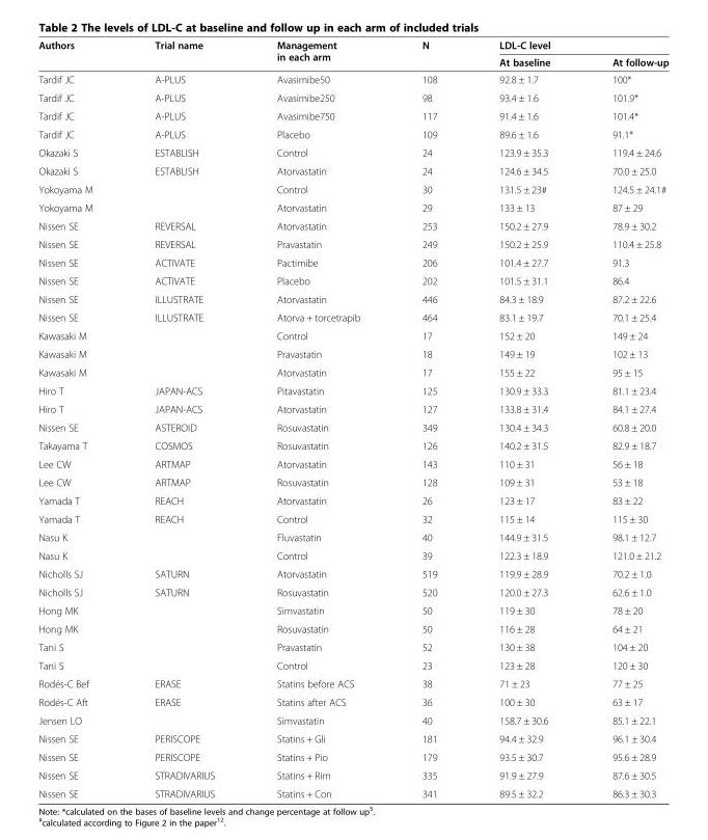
<table><thead><tr><td rowspan="2">Authors</td><td rowspan="2">Trial name</td><td rowspan="2">Management in each arm</td><td rowspan="2">N</td><td colspan="2">LDL-C level</td></tr><tr><td>At baseline</td><td>At follow-up</td></tr></thead><tbody><tr><td>Tardif JC</td><td>A-PLUS</td><td>Avasimibe50</td><td>108</td><td>92.8 ± 1.7</td><td>100*</td></tr><tr><td>Tardif JC</td><td>A-PLUS</td><td>Avasimibe250</td><td>98</td><td>93.4 ± 1.6</td><td>101.9*</td></tr><tr><td>Tardif JC</td><td>A-PLUS</td><td>Avasimibe750</td><td>117</td><td>91.4 ± 1.6</td><td>101.4*</td></tr><tr><td>Tardif JC</td><td>A-PLUS</td><td>Placebo</td><td>109</td><td>89.6 ± 1.6</td><td>91.1*</td></tr><tr><td>Okazaki S</td><td>ESTABLISH</td><td>Control</td><td>24</td><td>123.9 ± 35.3</td><td>119.4 ± 24.6</td></tr><tr><td>Okazaki S</td><td>ESTABLISH</td><td>Atorvastatin</td><td>24</td><td>124.6 ± 34.5</td><td>70.0 ± 25.0</td></tr><tr><td>Yokoyama M</td><td></td><td>Control</td><td>30</td><td>131.5 ± 23#</td><td>124.5 ± 24.1#</td></tr><tr><td>Yokoyama M</td><td></td><td>Atorvastatin</td><td>29</td><td>133 ± 13</td><td>87 ± 29</td></tr><tr><td>Nissen SE</td><td>REVERSAL</td><td>Atorvastatin</td><td>253</td><td>150.2 ± 27.9</td><td>78.9 ± 30.2</td></tr><tr><td>Nissen SE</td><td>REVERSAL</td><td>Pravastatin</td><td>249</td><td>150.2 ± 25.9</td><td>110.4 ± 25.8</td></tr><tr><td>Nissen SE</td><td>ACTIVATE</td><td>Pactimibe</td><td>206</td><td>101.4 ± 27.7</td><td>91.3</td></tr><tr><td>Nissen SE</td><td>ACTIVATE</td><td>Placebo</td><td>202</td><td>101.5 ± 31.1</td><td>86.4</td></tr><tr><td>Nissen SE</td><td>ILLUSTRATE</td><td>Atorvastatin</td><td>446</td><td>84.3 ± 18.9</td><td>87.2 ± 22.6</td></tr><tr><td>Nissen SE</td><td>ILLUSTRATE</td><td>Atorva + torcetrapib</td><td>464</td><td>83.1 ± 19.7</td><td>70.1 ± 25.4</td></tr><tr><td>Kawasaki M</td><td></td><td>Control</td><td>17</td><td>152 ± 20</td><td>149 ± 24</td></tr><tr><td>Kawasaki M</td><td></td><td>Pravastatin</td><td>18</td><td>149 ± 19</td><td>102 ± 13</td></tr><tr><td>Kawasaki M</td><td></td><td>Atorvastatin</td><td>17</td><td>155 ± 22</td><td>95 ± 15</td></tr><tr><td>Hiro T</td><td>JAPAN-ACS</td><td>Pitavastatin</td><td>125</td><td>130.9 ± 33.3</td><td>81.1 ± 23.4</td></tr><tr><td>Hiro T</td><td>JAPAN-ACS</td><td>Atorvastatin</td><td>127</td><td>133.8 ± 31.4</td><td>84.1 ± 27.4</td></tr><tr><td>Nissen SE</td><td>ASTEROID</td><td>Rosuvastatin</td><td>349</td><td>130.4 ± 34.3</td><td>60.8 ± 20.0</td></tr><tr><td>Takayama T</td><td>COSMOS</td><td>Rosuvastatin</td><td>126</td><td>140.2 ± 31.5</td><td>82.9 ± 18.7</td></tr><tr><td>Lee CW</td><td>ARTMAP</td><td>Atorvastatin</td><td>143</td><td>110 ± 31</td><td>56 ± 18</td></tr><tr><td>Lee CW</td><td>ARTMAP</td><td>Rosuvastatin</td><td>128</td><td>109 ± 31</td><td>53 ± 18</td></tr><tr><td>Yamada T</td><td>REACH</td><td>Atorvastatin</td><td>26</td><td>123 ± 17</td><td>83 ± 22</td></tr><tr><td>Yamada T</td><td>REACH</td><td>Control</td><td>32</td><td>115 ± 14</td><td>115 ± 30</td></tr><tr><td>Nasu K</td><td></td><td>Fluvastatin</td><td>40</td><td>144.9 ± 31.5</td><td>98.1 ± 12.7</td></tr><tr><td>Nasu K</td><td></td><td>Control</td><td>39</td><td>122.3 ± 18.9</td><td>121.0 ± 21.2</td></tr><tr><td>Nicholls SJ</td><td>SATURN</td><td>Atorvastatin</td><td>519</td><td>119.9 ± 28.9</td><td>70.2 ± 1.0</td></tr><tr><td>Nicholls SJ</td><td>SATURN</td><td>Rosuvastatin</td><td>520</td><td>120.0 ± 27.3</td><td>62.6 ± 1.0</td></tr><tr><td>Hong MK</td><td></td><td>Simvastatin</td><td>50</td><td>119 ± 30</td><td>78 ± 20</td></tr><tr><td>Hong MK</td><td></td><td>Rosuvastatin</td><td>50</td><td>116 ± 28</td><td>64 ± 21</td></tr><tr><td>Tani S</td><td></td><td>Pravastatin</td><td>52</td><td>130 ± 38</td><td>104 ± 20</td></tr><tr><td>Tani S</td><td></td><td>Control</td><td>23</td><td>123 ± 28</td><td>120 ± 30</td></tr><tr><td>Rodés-C Bef</td><td>ERASE</td><td>Statins before ACS</td><td>38</td><td>71 ± 23</td><td>77 ± 25</td></tr><tr><td>Rodés-C Aft</td><td>ERASE</td><td>Statins after ACS</td><td>36</td><td>100 ± 30</td><td>63 ± 17</td></tr><tr><td>Jensen LO</td><td></td><td>Simvastatin</td><td>40</td><td>158.7 ± 30.6</td><td>85.1 ± 22.1</td></tr><tr><td>Nissen SE</td><td>PERISCOPE</td><td>Statins + Gli</td><td>181</td><td>94.4 ± 32.9</td><td>96.1 ± 30.4</td></tr><tr><td>Nissen SE</td><td>PERISCOPE</td><td>Statins + Pio</td><td>179</td><td>93.5 ± 30.7</td><td>95.6 ± 28.9</td></tr><tr><td>Nissen SE</td><td>STRADIVARIUS</td><td>Statins + Rim</td><td>335</td><td>91.9 ± 27.9</td><td>87.6 ± 30.5</td></tr><tr><td>Nissen SE</td><td>STRADIVARIUS</td><td>Statins + Con</td><td>341</td><td>89.5 ± 32.2</td><td>86.3 ± 30.3</td></tr></tbody></table>